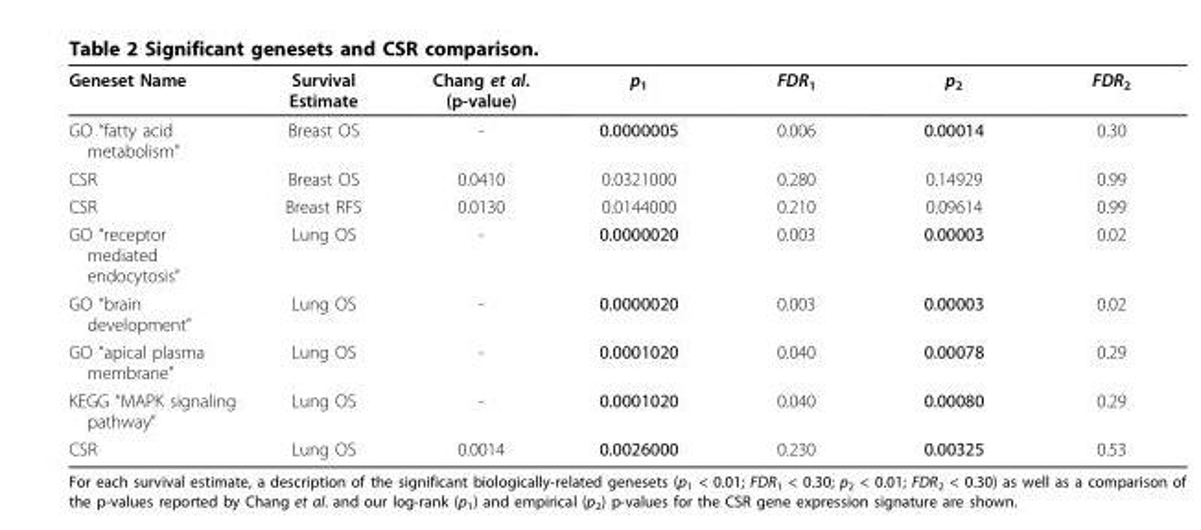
<table><thead><tr><td>Geneset Name</td><td>Survival Estimate</td><td>Chang et al. (p-value)</td><td>p<sub>1</sub></td><td>FDR<sub>1</sub></td><td>p<sub>2</sub></td><td>FDR<sub>2</sub></td></tr></thead><tbody><tr><td>GO “fatty acid metabolism”</td><td>Breast OS</td><td>-</td><td>0.0000005</td><td>0.006</td><td>0.00014</td><td>0.30</td></tr><tr><td>CSR</td><td>Breast OS</td><td>0.0410</td><td>0.0321000</td><td>0.280</td><td>0.14929</td><td>0.99</td></tr><tr><td>CSR</td><td>Breast RFS</td><td>0.0130</td><td>0.0144000</td><td>0.210</td><td>0.09614</td><td>0.99</td></tr><tr><td>GO “receptor mediated endocytosis”</td><td>Lung OS</td><td>-</td><td>0.0000020</td><td>0.003</td><td>0.00003</td><td>0.02</td></tr><tr><td>GO “brain development”</td><td>Lung OS</td><td>-</td><td>0.0000020</td><td>0.003</td><td>0.00003</td><td>0.02</td></tr><tr><td>GO “apical plasma membrane”</td><td>Lung OS</td><td>-</td><td>0.0001020</td><td>0.040</td><td>0.00078</td><td>0.29</td></tr><tr><td>KEGG “MAPK signaling pathway”</td><td>Lung OS</td><td>-</td><td>0.0001020</td><td>0.040</td><td>0.00080</td><td>0.29</td></tr><tr><td>CSR</td><td>Lung OS</td><td>0.0014</td><td>0.0026000</td><td>0.230</td><td>0.00325</td><td>0.53</td></tr></tbody></table>